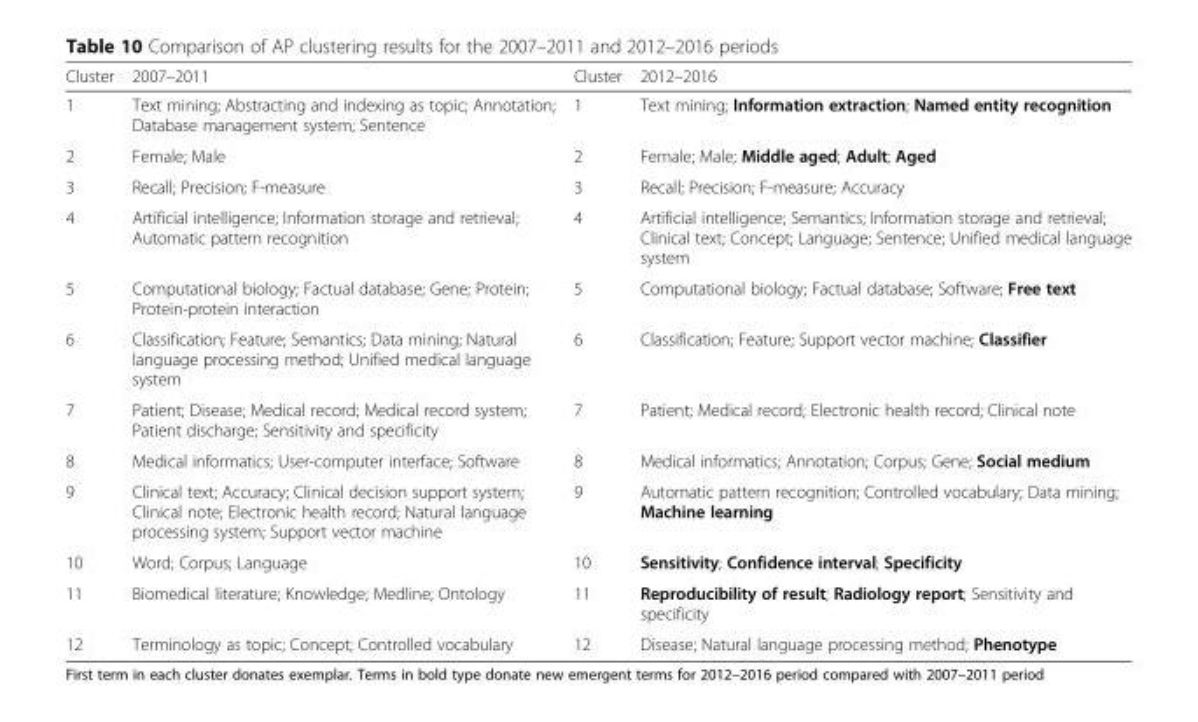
<table><thead><tr><td>Cluster</td><td>2007–2011</td><td>Cluster</td><td>2012–2016</td></tr></thead><tbody><tr><td>1</td><td>Text mining; Abstracting and indexing as topic; Annotation; Database management system; Sentence</td><td>1</td><td>Text mining; Information extraction; Named entity recognition</td></tr><tr><td>2</td><td>Female; Male</td><td>2</td><td>Female; Male; Middle aged; Adult; Aged</td></tr><tr><td>3</td><td>Recall; Precision; F-measure</td><td>3</td><td>Recall; Precision; F-measure; Accuracy</td></tr><tr><td>4</td><td>Artificial intelligence; Information storage and retrieval; Automatic pattern recognition</td><td>4</td><td>Artificial intelligence; Semantics; Information storage and retrieval; Clinical text; Concept; Language; Sentence; Unified medical language system</td></tr><tr><td>5</td><td>Computational biology; Factual database; Gene; Protein; Protein-protein interaction</td><td>5</td><td>Computational biology; Factual database; Software; Free text</td></tr><tr><td>6</td><td>Classification; Feature; Semantics; Data mining; Natural language processing method; Unified medical language system</td><td>6</td><td>Classification; Feature; Support vector machine; Classifier</td></tr><tr><td>7</td><td>Patient; Disease; Medical record; Medical record system; Patient discharge; Sensitivity and specificity</td><td>7</td><td>Patient; Medical record; Electronic health record; Clinical note</td></tr><tr><td>8</td><td>Medical informatics; User-computer interface; Software</td><td>8</td><td>Medical informatics; Annotation; Corpus; Gene; Social medium</td></tr><tr><td>9</td><td>Clinical text; Accuracy; Clinical decision support system; Clinical note; Electronic health record; Natural language processing system; Support vector machine</td><td>9</td><td>Automatic pattern recognition; Controlled vocabulary; Data mining; Machine learning</td></tr><tr><td>10</td><td>Word; Corpus; Language</td><td>10</td><td>Sensitivity; Confidence interval; Specificity</td></tr><tr><td>11</td><td>Biomedical literature; Knowledge; Medline; Ontology</td><td>11</td><td>Reproducibility of result; Radiology report; Sensitivity and specificity</td></tr><tr><td>12</td><td>Terminology as topic; Concept; Controlled vocabulary</td><td>12</td><td>Disease; Natural language processing method; Phenotype</td></tr></tbody></table>